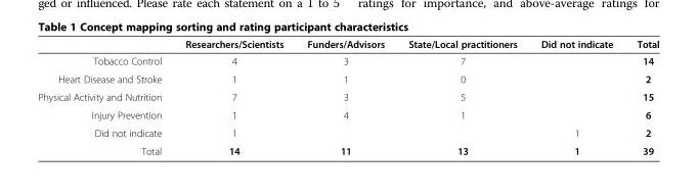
<table><thead><tr><td></td><td>Researchers/Scientists</td><td>Funders/Advisors</td><td>State/Local practitioners</td><td>Did not indicate</td><td>Total</td></tr></thead><tbody><tr><td>Tobacco Control</td><td>4</td><td>3</td><td>7</td><td></td><td>14</td></tr><tr><td>Heart Disease and Stroke</td><td>1</td><td>1</td><td>0</td><td></td><td>2</td></tr><tr><td>Physical Activity and Nutrition</td><td>7</td><td>3</td><td>5</td><td></td><td>15</td></tr><tr><td>Injury Prevention</td><td>1</td><td>4</td><td>1</td><td></td><td>6</td></tr><tr><td>Did not indicate</td><td>1</td><td></td><td></td><td>1</td><td>2</td></tr><tr><td>Total</td><td>14</td><td>11</td><td>13</td><td>1</td><td>39</td></tr></tbody></table>